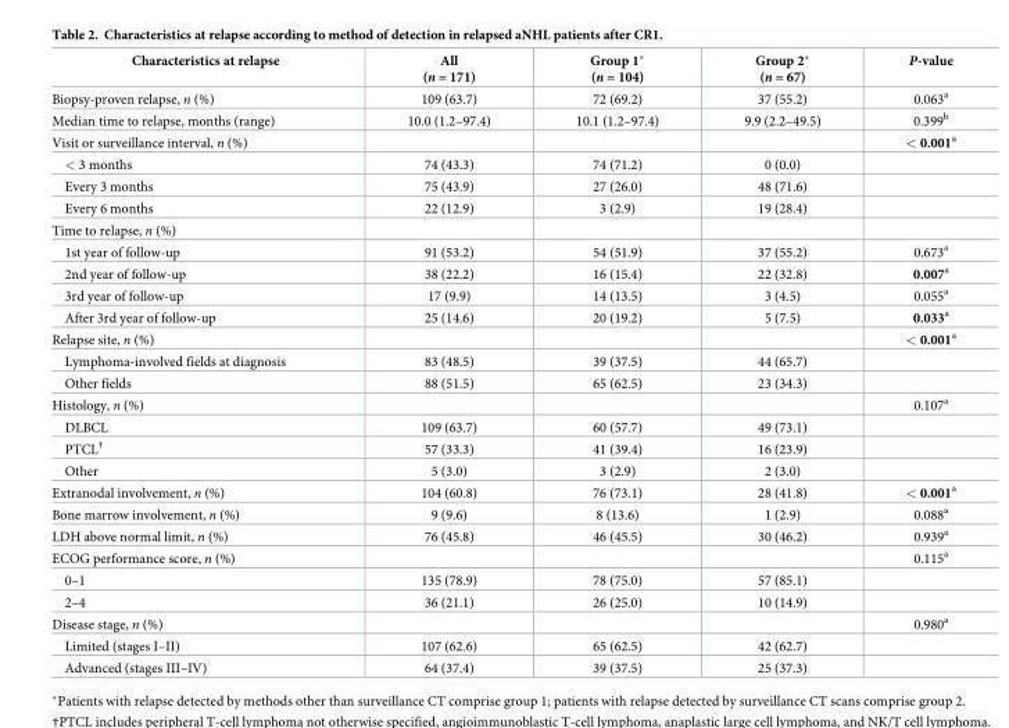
<table><thead><tr><td>Characteristics at relapse</td><td>All (n = 171)</td><td>Group 1* (n = 104)</td><td>Group 2* (n = 67)</td><td>P-value</td></tr></thead><tbody><tr><td>Biopsy-proven relapse, n (%)</td><td>109 (63.7)</td><td>72 (69.2)</td><td>37 (55.2)</td><td>0.063<sup>a</sup></td></tr><tr><td>Median time to relapse, months (range)</td><td>10.0 (1.2–97.4)</td><td>10.1 (1.2–97.4)</td><td>9.9 (2.2–49.5)</td><td>0.399<sup>b</sup></td></tr><tr><td>Visit or surveillance interval, n (%)</td><td></td><td></td><td></td><td>&lt; 0.001<sup>a</sup></td></tr><tr><td>&lt; 3 months</td><td>74 (43.3)</td><td>74 (71.2)</td><td>0 (0.0)</td><td></td></tr><tr><td>Every 3 months</td><td>75 (43.9)</td><td>27 (26.0)</td><td>48 (71.6)</td><td></td></tr><tr><td>Every 6 months</td><td>22 (12.9)</td><td>3 (2.9)</td><td>19 (28.4)</td><td></td></tr><tr><td colspan="5">Time to relapse, n (%)</td></tr><tr><td>1st year of follow-up</td><td>91 (53.2)</td><td>54 (51.9)</td><td>37 (55.2)</td><td>0.673<sup>a</sup></td></tr><tr><td>2nd year of follow-up</td><td>38 (22.2)</td><td>16 (15.4)</td><td>22 (32.8)</td><td>0.007<sup>a</sup></td></tr><tr><td>3rd year of follow-up</td><td>17 (9.9)</td><td>14 (13.5)</td><td>3 (4.5)</td><td>0.055<sup>a</sup></td></tr><tr><td>After 3rd year of follow-up</td><td>25 (14.6)</td><td>20 (19.2)</td><td>5 (7.5)</td><td>0.033<sup>a</sup></td></tr><tr><td>Relapse site, n (%)</td><td></td><td></td><td></td><td>&lt; 0.001<sup>a</sup></td></tr><tr><td>Lymphoma-involved fields at diagnosis</td><td>83 (48.5)</td><td>39 (37.5)</td><td>44 (65.7)</td><td></td></tr><tr><td>Other fields</td><td>88 (51.5)</td><td>65 (62.5)</td><td>23 (34.3)</td><td></td></tr><tr><td>Histology, n (%)</td><td></td><td></td><td></td><td>0.107<sup>a</sup></td></tr><tr><td>DLBCL</td><td>109 (63.7)</td><td>60 (57.7)</td><td>49 (73.1)</td><td></td></tr><tr><td>PTCL<sup>†</sup></td><td>57 (33.3)</td><td>41 (39.4)</td><td>16 (23.9)</td><td></td></tr><tr><td>Other</td><td>5 (3.0)</td><td>3 (2.9)</td><td>2 (3.0)</td><td></td></tr><tr><td>Extranodal involvement, n (%)</td><td>104 (60.8)</td><td>76 (73.1)</td><td>28 (41.8)</td><td>&lt; 0.001<sup>a</sup></td></tr><tr><td>Bone marrow involvement, n (%)</td><td>9 (9.6)</td><td>8 (13.6)</td><td>1 (2.9)</td><td>0.088<sup>a</sup></td></tr><tr><td>LDH above normal limit, n (%)</td><td>76 (45.8)</td><td>46 (45.5)</td><td>30 (46.2)</td><td>0.939<sup>a</sup></td></tr><tr><td>ECOG performance score, n (%)</td><td></td><td></td><td></td><td>0.115<sup>a</sup></td></tr><tr><td>0–1</td><td>135 (78.9)</td><td>78 (75.0)</td><td>57 (85.1)</td><td></td></tr><tr><td>2–4</td><td>36 (21.1)</td><td>26 (25.0)</td><td>10 (14.9)</td><td></td></tr><tr><td>Disease stage, n (%)</td><td></td><td></td><td></td><td>0.980<sup>a</sup></td></tr><tr><td>Limited (stages I–II)</td><td>107 (62.6)</td><td>65 (62.5)</td><td>42 (62.7)</td><td></td></tr><tr><td>Advanced (stages III–IV)</td><td>64 (37.4)</td><td>39 (37.5)</td><td>25 (37.3)</td><td></td></tr></tbody></table>